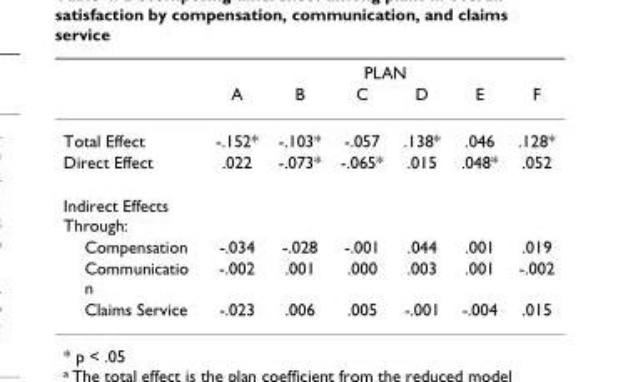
<table><thead><tr><td rowspan="2"></td><td colspan="6">PLAN</td></tr><tr><td>A</td><td>B</td><td>C</td><td>D</td><td>E</td><td>F</td></tr></thead><tbody><tr><td>Total Effect</td><td>-.152*</td><td>-.103*</td><td>-.057</td><td>.138*</td><td>.046</td><td>.128*</td></tr><tr><td>Direct Effect</td><td>.022</td><td>-.073*</td><td>-.065*</td><td>.015</td><td>.048*</td><td>.052</td></tr><tr><td colspan="7">Indirect Effects Through:</td></tr><tr><td>Compensation</td><td>-.034</td><td>-.028</td><td>-.001</td><td>.044</td><td>.001</td><td>.019</td></tr><tr><td>Communicatio n</td><td>-.002</td><td>.001</td><td>.000</td><td>.003</td><td>.001</td><td>-.002</td></tr><tr><td>Claims Service</td><td>-.023</td><td>.006</td><td>.005</td><td>-.001</td><td>-.004</td><td>.015</td></tr></tbody></table>